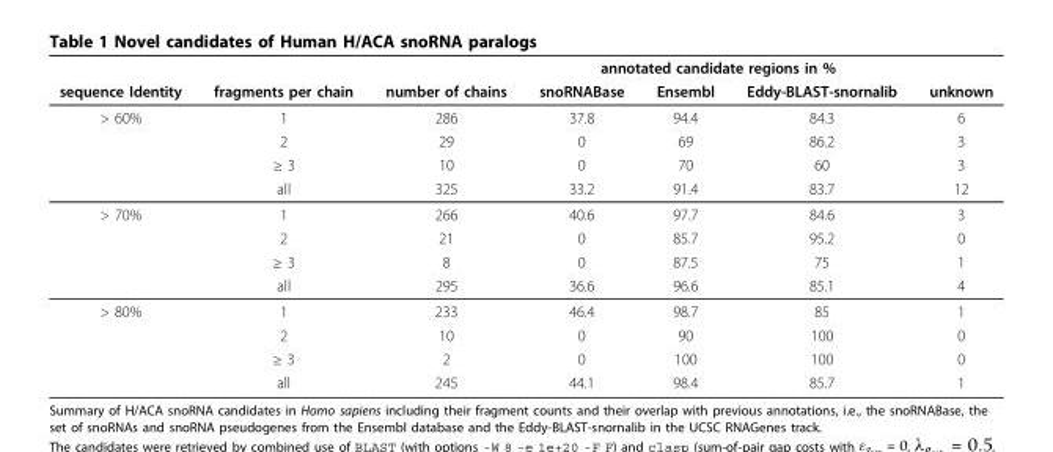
<table><thead><tr><td rowspan="2">sequence Identity</td><td rowspan="2">fragments per chain</td><td rowspan="2">number of chains</td><td colspan="3">annotated candidate regions in %</td><td rowspan="2">unknown</td></tr><tr><td>snoRNABase</td><td>Ensembl</td><td>Eddy-BLAST-snornalib</td></tr></thead><tbody><tr><td rowspan="4">&gt; 60%</td><td>1</td><td>286</td><td>37.8</td><td>94.4</td><td>84.3</td><td>6</td></tr><tr><td>2</td><td>29</td><td>0</td><td>69</td><td>86.2</td><td>3</td></tr><tr><td>≥ 3</td><td>10</td><td>0</td><td>70</td><td>60</td><td>3</td></tr><tr><td>all</td><td>325</td><td>33.2</td><td>91.4</td><td>83.7</td><td>12</td></tr><tr><td rowspan="4">&gt; 70%</td><td>1</td><td>266</td><td>40.6</td><td>97.7</td><td>84.6</td><td>3</td></tr><tr><td>2</td><td>21</td><td>0</td><td>85.7</td><td>95.2</td><td>0</td></tr><tr><td>≥ 3</td><td>8</td><td>0</td><td>87.5</td><td>75</td><td>1</td></tr><tr><td>all</td><td>295</td><td>36.6</td><td>96.6</td><td>85.1</td><td>4</td></tr><tr><td rowspan="4">&gt; 80%</td><td>1</td><td>233</td><td>46.4</td><td>98.7</td><td>85</td><td>1</td></tr><tr><td>2</td><td>10</td><td>0</td><td>90</td><td>100</td><td>0</td></tr><tr><td>≥ 3</td><td>2</td><td>0</td><td>100</td><td>100</td><td>0</td></tr><tr><td>all</td><td>245</td><td>44.1</td><td>98.4</td><td>85.7</td><td>1</td></tr></tbody></table>